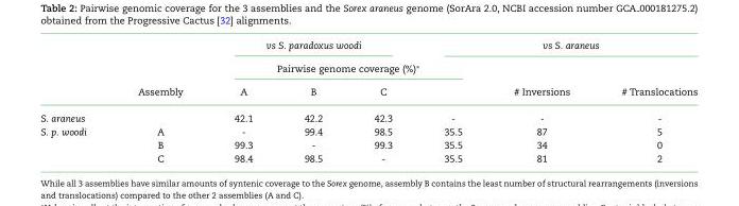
<table><thead><tr><td rowspan="3"></td><td rowspan="3">Assembly</td><td colspan="3">vs S. paradoxus woodi</td><td colspan="3">vs S. araneus</td></tr><tr><td colspan="4">Pairwise genome coverage (%)∗</td><td rowspan="2"># Inversions</td><td rowspan="2"># Translocations</td></tr><tr><td>A</td><td>B</td><td>C</td><td></td></tr></thead><tbody><tr><td>S. araneus</td><td></td><td>42.1</td><td>42.2</td><td>42.3</td><td>-</td><td>-</td><td>-</td></tr><tr><td rowspan="3">S. p. woodi</td><td>A</td><td>-</td><td>99.4</td><td>98.5</td><td>35.5</td><td>87</td><td>5</td></tr><tr><td>B</td><td>99.3</td><td>-</td><td>99.3</td><td>35.5</td><td>34</td><td>0</td></tr><tr><td>C</td><td>98.4</td><td>98.5</td><td>-</td><td>35.5</td><td>81</td><td>2</td></tr></tbody></table>